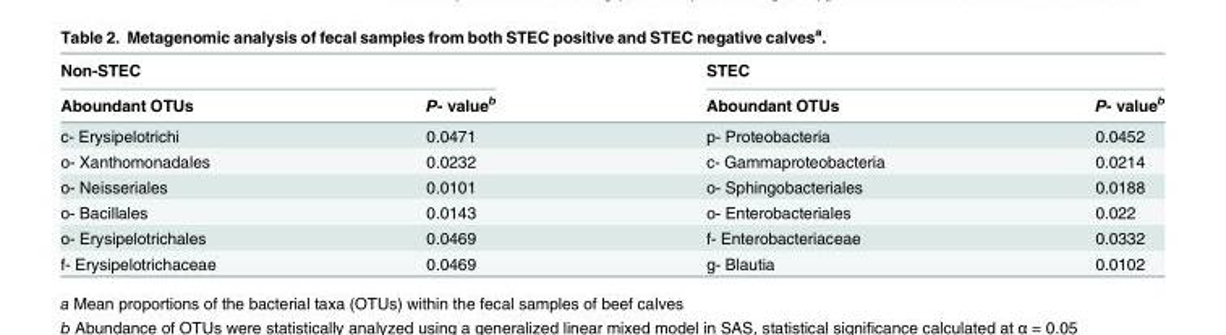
<table><thead><tr><td colspan="2">Non-STEC</td><td colspan="2">STEC</td></tr><tr><td>Aboundant OTUs</td><td>P- value<sup>b</sup></td><td>Aboundant OTUs</td><td>P- value<sup>b</sup></td></tr></thead><tbody><tr><td>c- Erysipelotrichi</td><td>0.0471</td><td>p- Proteobacteria</td><td>0.0452</td></tr><tr><td>o- Xanthomonadales</td><td>0.0232</td><td>c- Gammaproteobacteria</td><td>0.0214</td></tr><tr><td>o- Neisseriales</td><td>0.0101</td><td>o- Sphingobacteriales</td><td>0.0188</td></tr><tr><td>o- Bacillales</td><td>0.0143</td><td>o- Enterobacteriales</td><td>0.022</td></tr><tr><td>o- Erysipelotrichales</td><td>0.0469</td><td>f- Enterobacteriaceae</td><td>0.0332</td></tr><tr><td>f- Erysipelotrichaceae</td><td>0.0469</td><td>g- Blautia</td><td>0.0102</td></tr></tbody></table>